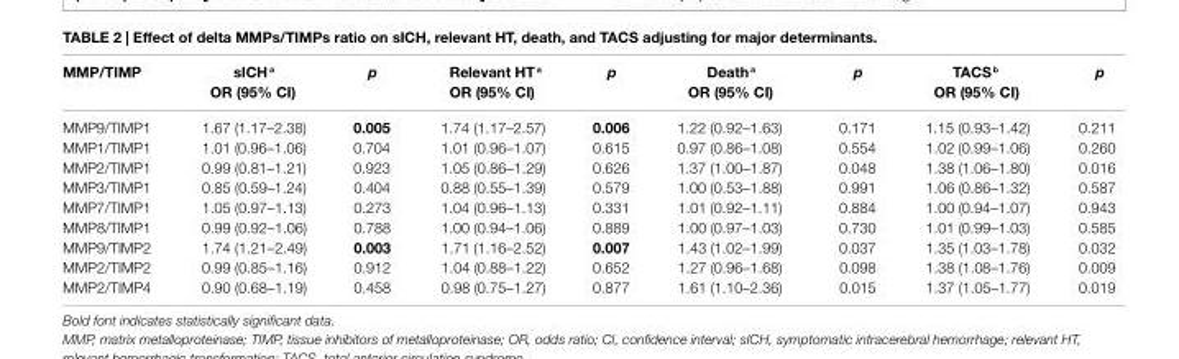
<table><thead><tr><td>MMP/TiMP</td><td>sich <sup>a</sup> Or (95% ci)</td><td>p</td><td>relevant hT <sup>a</sup> Or (95% ci)</td><td>p</td><td>Death <sup>a</sup> Or (95% ci)</td><td>p</td><td>Tacs <sup>b</sup> Or (95% ci)</td><td>p</td></tr></thead><tbody><tr><td>MMP9/TIMP1</td><td>1.67 (1.17–2.38)</td><td>0.005</td><td>1.74 (1.17–2.57)</td><td>0.006</td><td>1.22 (0.92–1.63)</td><td>0.171</td><td>1.15 (0.93–1.42)</td><td>0.211</td></tr><tr><td>MMP1/TIMP1</td><td>1.01 (0.96–1.06)</td><td>0.704</td><td>1.01 (0.96–1.07)</td><td>0.615</td><td>0.97 (0.86–1.08)</td><td>0.554</td><td>1.02 (0.99–1.06)</td><td>0.260</td></tr><tr><td>MMP2/TIMP1</td><td>0.99 (0.81–1.21)</td><td>0.923</td><td>1.05 (0.86–1.29)</td><td>0.626</td><td>1.37 (1.00–1.87)</td><td>0.048</td><td>1.38 (1.06–1.80)</td><td>0.016</td></tr><tr><td>MMP3/TIMP1</td><td>0.85 (0.59–1.24)</td><td>0.404</td><td>0.88 (0.55–1.39)</td><td>0.579</td><td>1.00 (0.53–1.88)</td><td>0.991</td><td>1.06 (0.86–1.32)</td><td>0.587</td></tr><tr><td>MMP7/TIMP1</td><td>1.05 (0.97–1.13)</td><td>0.273</td><td>1.04 (0.96–1.13)</td><td>0.331</td><td>1.01 (0.92–1.11)</td><td>0.884</td><td>1.00 (0.94–1.07)</td><td>0.943</td></tr><tr><td>MMP8/TIMP1</td><td>0.99 (0.92–1.06)</td><td>0.788</td><td>1.00 (0.94–1.06)</td><td>0.889</td><td>1.00 (0.97–1.03)</td><td>0.730</td><td>1.01 (0.99–1.03)</td><td>0.585</td></tr><tr><td>MMP9/TIMP2</td><td>1.74 (1.21–2.49)</td><td>0.003</td><td>1.71 (1.16–2.52)</td><td>0.007</td><td>1.43 (1.02–1.99)</td><td>0.037</td><td>1.35 (1.03–1.78)</td><td>0.032</td></tr><tr><td>MMP2/TIMP2</td><td>0.99 (0.85–1.16)</td><td>0.912</td><td>1.04 (0.88–1.22)</td><td>0.652</td><td>1.27 (0.96–1.68)</td><td>0.098</td><td>1.38 (1.08–1.76)</td><td>0.009</td></tr><tr><td>MMP2/TIMP4</td><td>0.90 (0.68–1.19)</td><td>0.458</td><td>0.98 (0.75–1.27)</td><td>0.877</td><td>1.61 (1.10–2.36)</td><td>0.015</td><td>1.37 (1.05–1.77)</td><td>0.019</td></tr></tbody></table>